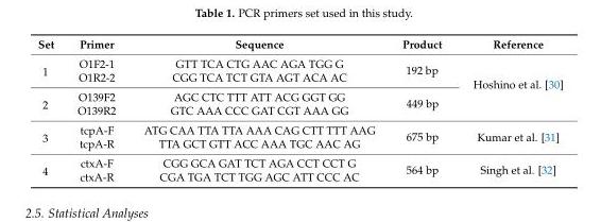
<table><thead><tr><td>Set</td><td>Primer</td><td>Sequence</td><td>Product</td><td>Reference</td></tr></thead><tbody><tr><td rowspan="2">1</td><td>O1F2-1</td><td>GTT TCA CTG AAC AGA TGG G</td><td rowspan="2">192 bp</td><td rowspan="4">Hoshino et al. [30]</td></tr><tr><td>O1R2-2</td><td>CGG TCA TCT GTA AGT ACA AC</td></tr><tr><td rowspan="2">2</td><td>O139F2</td><td>AGC CTC TTT ATT ACG GGT GG</td><td rowspan="2">449 bp</td></tr><tr><td>O139R2</td><td>GTC AAA CCC GAT CGT AAA GG</td></tr><tr><td rowspan="2">3</td><td>tcpA-F</td><td>ATG CAA TTA TTA AAA CAG CTT TTT AAG</td><td rowspan="2">675 bp</td><td rowspan="2">Kumar et al. [31]</td></tr><tr><td>tcpA-R</td><td>TTA GCT GTT ACC AAA TGC AAC AG</td></tr><tr><td rowspan="2">4</td><td>ctxA-F</td><td>CGG GCA GAT TCT AGA CCT CCT G</td><td rowspan="2">564 bp</td><td rowspan="2">Singh et al. [32]</td></tr><tr><td>ctxA-R</td><td>CGA TGA TCT TGG AGC ATT CCC AC</td></tr></tbody></table>